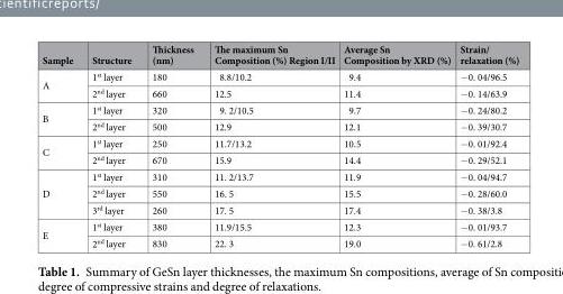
<table><thead><tr><td>Sample</td><td>Structure</td><td>Thickness (nm)</td><td>The maximum Sn Composition (%) Region I/II</td><td>Average Sn Composition by XRD (%)</td><td>Strain/ relaxation (%)</td></tr></thead><tbody><tr><td rowspan="2">A</td><td>1<sup>st</sup> layer</td><td>180</td><td>8.8/10.2</td><td>9.4</td><td>−0. 04/96.5</td></tr><tr><td>2<sup>nd</sup> layer</td><td>660</td><td>12.5</td><td>11.4</td><td>−0. 14/63.9</td></tr><tr><td rowspan="2">B</td><td>1<sup>st</sup> layer</td><td>320</td><td>9. 2/10.5</td><td>9.7</td><td>−0. 24/80.2</td></tr><tr><td>2<sup>nd</sup> layer</td><td>500</td><td>12.9</td><td>12.1</td><td>−0. 39/30.7</td></tr><tr><td rowspan="2">C</td><td>1<sup>st</sup> layer</td><td>250</td><td>11.7/13.2</td><td>10.5</td><td>−0. 01/92.4</td></tr><tr><td>2<sup>nd</sup> layer</td><td>670</td><td>15.9</td><td>14.4</td><td>−0. 29/52.1</td></tr><tr><td rowspan="3">D</td><td>1<sup>st</sup> layer</td><td>310</td><td>11. 2/13.7</td><td>11.9</td><td>−0. 04/94.7</td></tr><tr><td>2<sup>nd</sup> layer</td><td>550</td><td>16. 5</td><td>15.5</td><td>−0. 28/60.0</td></tr><tr><td>3<sup>rd</sup> layer</td><td>260</td><td>17. 5</td><td>17.4</td><td>−0. 38/3.8</td></tr><tr><td rowspan="2">E</td><td>1<sup>st</sup> layer</td><td>380</td><td>11.9/15.5</td><td>12.3</td><td>−0. 01/93.7</td></tr><tr><td>2<sup>nd</sup> layer</td><td>830</td><td>22. 3</td><td>19.0</td><td>−0. 61/2.8</td></tr></tbody></table>